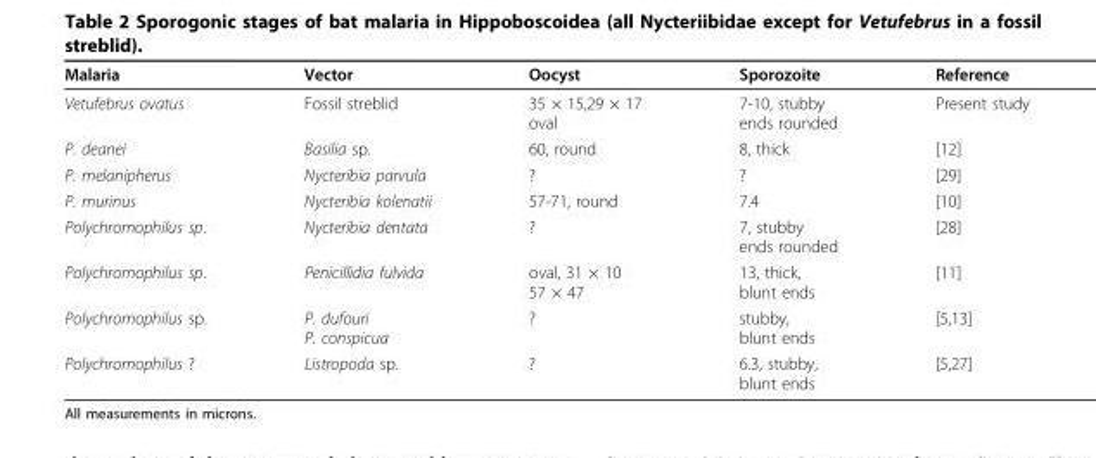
<table><thead><tr><td>Malaria</td><td>Vector</td><td>Oocyst</td><td>Sporozoite</td><td>Reference</td></tr></thead><tbody><tr><td>Vetufebrus ovatus</td><td>Fossil streblid</td><td>35 × 15,29 × 17 oval</td><td>7-10, stubby ends rounded</td><td>Present study</td></tr><tr><td>P. deanei</td><td>Basilia sp.</td><td>60, round</td><td>8, thick</td><td>[12]</td></tr><tr><td>P. melanipherus</td><td>Nycteribia parvula</td><td>?</td><td>?</td><td>[29]</td></tr><tr><td>P. murinus</td><td>Nycteribia kolenatii</td><td>57-71, round</td><td>7.4</td><td>[10]</td></tr><tr><td>Polychromophilus sp.</td><td>Nycteribia dentata</td><td>?</td><td>7, stubby ends rounded</td><td>[28]</td></tr><tr><td>Polychromophilus sp.</td><td>Penicillidia fulvida</td><td>oval, 31 × 10 57 × 47</td><td>13, thick, blunt ends</td><td>[11]</td></tr><tr><td>Polychromophilus sp.</td><td>P. dufouri P. conspicua</td><td>?</td><td>stubby, blunt ends</td><td>[5,13]</td></tr><tr><td>Polychromophilus ?</td><td>Listropoda sp.</td><td>?</td><td>6.3, stubby, blunt ends</td><td>[5,27]</td></tr></tbody></table>